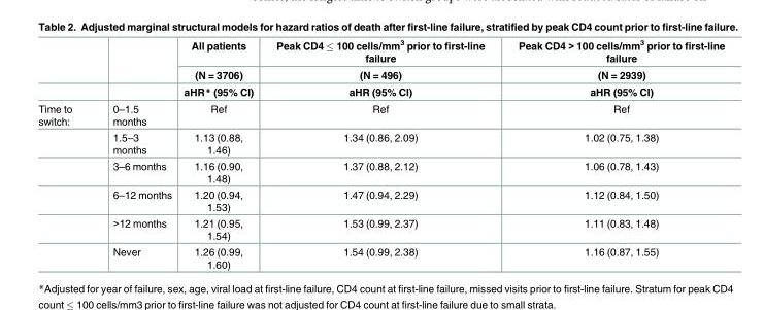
<table><thead><tr><td rowspan="3"></td><td rowspan="3"></td><td rowspan="3">All patients (N = 3706) aHR* (95% CI)</td><td rowspan="3">Peak CD4 ≤ 100 cells/mm3 prior to first-line failure (N = 496) aHR (95% CI)</td><td rowspan="3">Peak CD4 &gt; 100 cells/mm3 prior to first-line failure (N = 2939) aHR (95% CI)</td></tr><tr></tr><tr></tr></thead><tbody><tr><td rowspan="6">Time to switch:</td><td>0–1.5 months</td><td>Ref</td><td>Ref</td><td>Ref</td></tr><tr><td>1.5–3 months</td><td>1.13 (0.88, 1.46)</td><td>1.34 (0.86, 2.09)</td><td>1.02 (0.75, 1.38)</td></tr><tr><td>3–6 months</td><td>1.16 (0.90, 1.48)</td><td>1.37 (0.88, 2.12)</td><td>1.06 (0.78, 1.43)</td></tr><tr><td>6–12 months</td><td>1.20 (0.94, 1.53)</td><td>1.47 (0.94, 2.29)</td><td>1.12 (0.84, 1.50)</td></tr><tr><td>&gt;12 months</td><td>1.21 (0.95, 1.54)</td><td>1.53 (0.99, 2.37)</td><td>1.11 (0.83, 1.48)</td></tr><tr><td>Never</td><td>1.26 (0.99, 1.60)</td><td>1.54 (0.99, 2.38)</td><td>1.16 (0.87, 1.55)</td></tr></tbody></table>